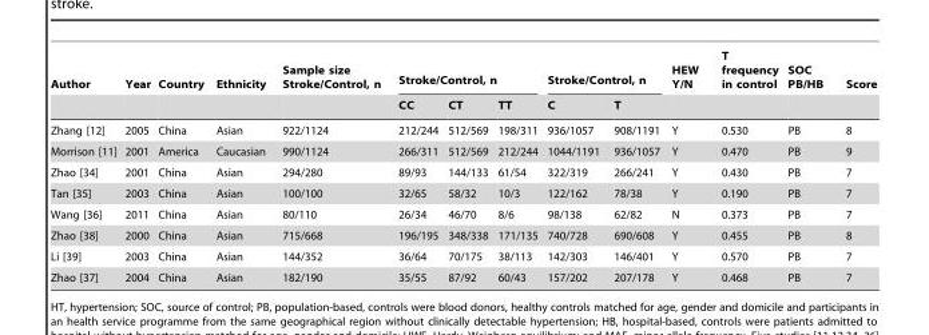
<table><thead><tr><td rowspan="2">Author</td><td rowspan="2">Year</td><td rowspan="2">Country</td><td rowspan="2">Ethnicity</td><td rowspan="2">Sample size Stroke/Control, n</td><td colspan="3">Stroke/Control, n</td><td colspan="2">Stroke/Control, n</td><td rowspan="2">HEW Y/N</td><td rowspan="2">T frequency in control</td><td rowspan="2">SOC PB/HB</td><td rowspan="2">Score</td></tr><tr><td>CC</td><td>CT</td><td>TT</td><td>C</td><td>T</td></tr></thead><tbody><tr><td>Zhang [12]</td><td>2005</td><td>China</td><td>Asian</td><td>922/1124</td><td>212/244</td><td>512/569</td><td>198/311</td><td>936/1057</td><td>908/1191</td><td>Y</td><td>0.530</td><td>PB</td><td>8</td></tr><tr><td>Morrison [11]</td><td>2001</td><td>America</td><td>Caucasian</td><td>990/1124</td><td>266/311</td><td>512/569</td><td>212/244</td><td>1044/1191</td><td>936/1057</td><td>Y</td><td>0.470</td><td>PB</td><td>9</td></tr><tr><td>Zhao [34]</td><td>2001</td><td>China</td><td>Asian</td><td>294/280</td><td>89/93</td><td>144/133</td><td>61/54</td><td>322/319</td><td>266/241</td><td>Y</td><td>0.430</td><td>PB</td><td>7</td></tr><tr><td>Tan [35]</td><td>2003</td><td>China</td><td>Asian</td><td>100/100</td><td>32/65</td><td>58/32</td><td>10/3</td><td>122/162</td><td>78/38</td><td>Y</td><td>0.190</td><td>PB</td><td>7</td></tr><tr><td>Wang [36]</td><td>2011</td><td>China</td><td>Asian</td><td>80/110</td><td>26/34</td><td>46/70</td><td>8/6</td><td>98/138</td><td>62/82</td><td>N</td><td>0.373</td><td>PB</td><td>7</td></tr><tr><td>Zhao [38]</td><td>2000</td><td>China</td><td>Asian</td><td>715/668</td><td>196/195</td><td>348/338</td><td>171/135</td><td>740/728</td><td>690/608</td><td>Y</td><td>0.455</td><td>PB</td><td>8</td></tr><tr><td>Li [39]</td><td>2003</td><td>China</td><td>Asian</td><td>144/352</td><td>36/64</td><td>70/175</td><td>38/113</td><td>142/303</td><td>146/401</td><td>Y</td><td>0.570</td><td>PB</td><td>7</td></tr><tr><td>Zhao [37]</td><td>2004</td><td>China</td><td>Asian</td><td>182/190</td><td>35/55</td><td>87/92</td><td>60/43</td><td>157/202</td><td>207/178</td><td>Y</td><td>0.468</td><td>PB</td><td>7</td></tr></tbody></table>